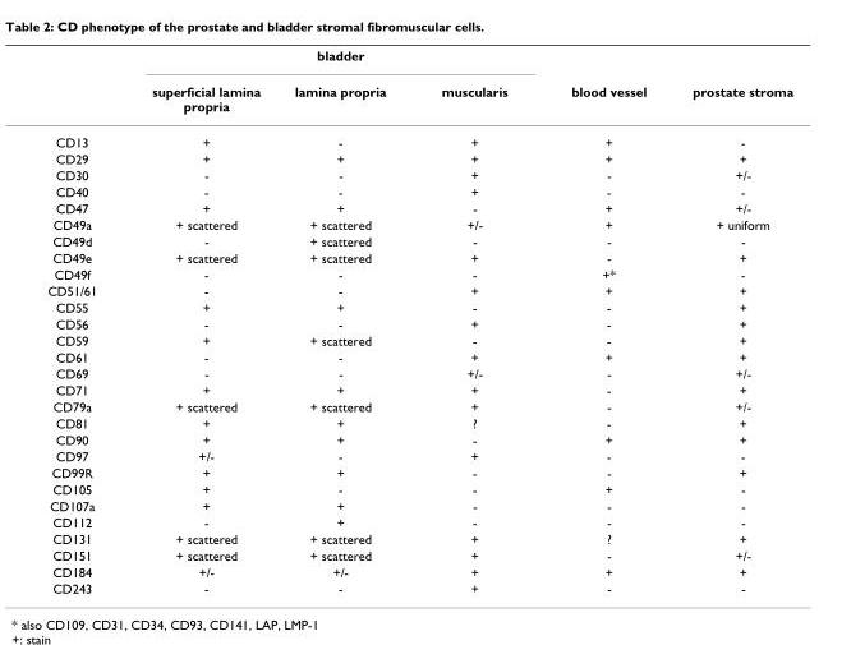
<table><thead><tr><td rowspan="2"></td><td colspan="3">bladder</td><td rowspan="2">blood vessel</td><td rowspan="2">prostate stroma</td></tr><tr><td>superficial lamina propria</td><td>lamina propria</td><td>muscularis</td></tr></thead><tbody><tr><td>CD13</td><td>+</td><td>-</td><td>+</td><td>+</td><td>-</td></tr><tr><td>CD29</td><td>+</td><td>+</td><td>+</td><td>+</td><td>+</td></tr><tr><td>CD30</td><td>-</td><td>-</td><td>+</td><td>-</td><td>+/-</td></tr><tr><td>CD40</td><td>-</td><td>-</td><td>+</td><td>-</td><td>-</td></tr><tr><td>CD47</td><td>+</td><td>+</td><td>-</td><td>+</td><td>+/-</td></tr><tr><td>CD49a</td><td>+ scattered</td><td>+ scattered</td><td>+/-</td><td>+</td><td>+ uniform</td></tr><tr><td>CD49d</td><td>-</td><td>+ scattered</td><td>-</td><td>-</td><td>-</td></tr><tr><td>CD49e</td><td>+ scattered</td><td>+ scattered</td><td>+</td><td>-</td><td>+</td></tr><tr><td>CD49f</td><td>-</td><td>-</td><td>-</td><td>+*</td><td>-</td></tr><tr><td>CD51/61</td><td>-</td><td>-</td><td>+</td><td>+</td><td>+</td></tr><tr><td>CD55</td><td>+</td><td>+</td><td>-</td><td>-</td><td>+</td></tr><tr><td>CD56</td><td>-</td><td>-</td><td>+</td><td>-</td><td>+</td></tr><tr><td>CD59</td><td>+</td><td>+ scattered</td><td>-</td><td>-</td><td>+</td></tr><tr><td>CD61</td><td>-</td><td>-</td><td>+</td><td>+</td><td>+</td></tr><tr><td>CD69</td><td>-</td><td>-</td><td>+/-</td><td>-</td><td>+/-</td></tr><tr><td>CD71</td><td>+</td><td>+</td><td>+</td><td>-</td><td>+</td></tr><tr><td>CD79a</td><td>+ scattered</td><td>+ scattered</td><td>+</td><td>-</td><td>+/-</td></tr><tr><td>CD81</td><td>+</td><td>+</td><td>?</td><td>-</td><td>+</td></tr><tr><td>CD90</td><td>+</td><td>+</td><td>-</td><td>+</td><td>+</td></tr><tr><td>CD97</td><td>+/-</td><td>-</td><td>+</td><td>-</td><td>-</td></tr><tr><td>CD99R</td><td>+</td><td>+</td><td>-</td><td>-</td><td>+</td></tr><tr><td>CD105</td><td>+</td><td>-</td><td>-</td><td>+</td><td>-</td></tr><tr><td>CD107a</td><td>+</td><td>+</td><td>-</td><td>-</td><td>-</td></tr><tr><td>CD112</td><td>-</td><td>+</td><td>-</td><td>-</td><td>-</td></tr><tr><td>CD131</td><td>+ scattered</td><td>+ scattered</td><td>+</td><td>?</td><td>+</td></tr><tr><td>CD151</td><td>+ scattered</td><td>+ scattered</td><td>+</td><td>-</td><td>+/-</td></tr><tr><td>CD184</td><td>+/-</td><td>+/-</td><td>+</td><td>+</td><td>+</td></tr><tr><td>CD243</td><td>-</td><td>-</td><td>+</td><td>-</td><td>-</td></tr></tbody></table>